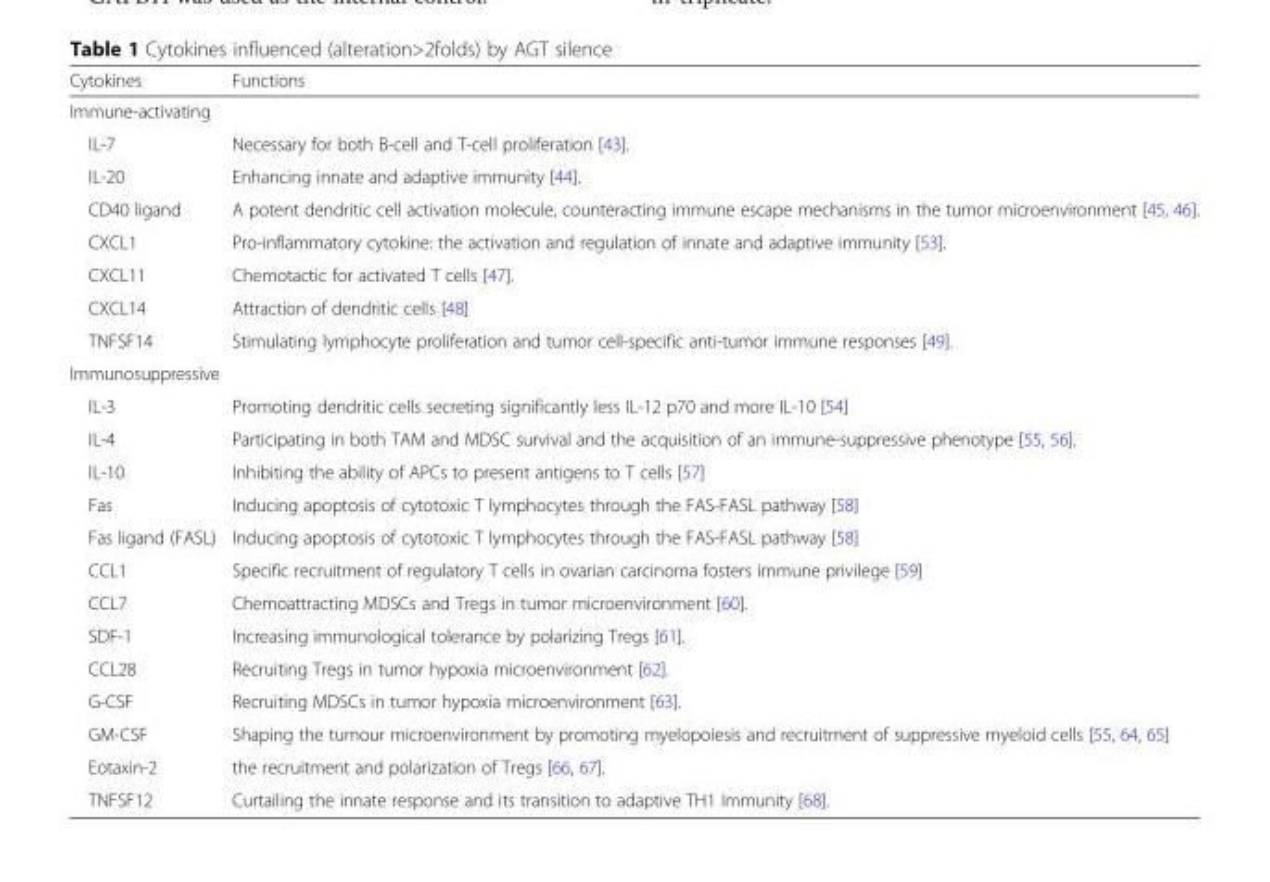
<table><thead><tr><td>Cytokines</td><td>Functions</td></tr></thead><tbody><tr><td colspan="2">Immune-activating</td></tr><tr><td>IL-7</td><td>Necessary for both B-cell and T-cell proliferation [43].</td></tr><tr><td>IL-20</td><td>Enhancing innate and adaptive immunity [44].</td></tr><tr><td>CD40 ligand</td><td>A potent dendritic cell activation molecule, counteracting immune escape mechanisms in the tumor microenvironment [45, 46].</td></tr><tr><td>CXCL1</td><td>Pro-inflammatory cytokine: the activation and regulation of innate and adaptive immunity [53].</td></tr><tr><td>CXCL11</td><td>Chemotactic for activated T cells [47].</td></tr><tr><td>CXCL14</td><td>Attraction of dendritic cells [48]</td></tr><tr><td>TNFSF14</td><td>Stimulating lymphocyte proliferation and tumor cell-specific anti-tumor immune responses [49].</td></tr><tr><td colspan="2">Immunosuppressive</td></tr><tr><td>IL-3</td><td>Promoting dendritic cells secreting significantly less IL-12 p70 and more IL-10 [54]</td></tr><tr><td>IL-4</td><td>Participating in both TAM and MDSC survival and the acquisition of an immune-suppressive phenotype [55, 56].</td></tr><tr><td>IL-10</td><td>Inhibiting the ability of APCs to present antigens to T cells [57]</td></tr><tr><td>Fas</td><td>Inducing apoptosis of cytotoxic T lymphocytes through the FAS-FASL pathway [58]</td></tr><tr><td>Fas ligand (FASL)</td><td>Inducing apoptosis of cytotoxic T lymphocytes through the FAS-FASL pathway [58]</td></tr><tr><td>CCL1</td><td>Specific recruitment of regulatory T cells in ovarian carcinoma fosters immune privilege [59]</td></tr><tr><td>CCL7</td><td>Chemoattracting MDSCs and Tregs in tumor microenvironment [60].</td></tr><tr><td>SDF-1</td><td>Increasing immunological tolerance by polarizing Tregs [61].</td></tr><tr><td>CCL28</td><td>Recruiting Tregs in tumor hypoxia microenvironment [62].</td></tr><tr><td>G-CSF</td><td>Recruiting MDSCs in tumor hypoxia microenvironment [63].</td></tr><tr><td>GM-CSF</td><td>Shaping the tumour microenvironment by promoting myelopoiesis and recruitment of suppressive myeloid cells [55, 64, 65]</td></tr><tr><td>Eotaxin-2</td><td>the recruitment and polarization of Tregs [66, 67].</td></tr><tr><td>TNFSF12</td><td>Curtailing the innate response and its transition to adaptive TH1 Immunity [68].</td></tr></tbody></table>